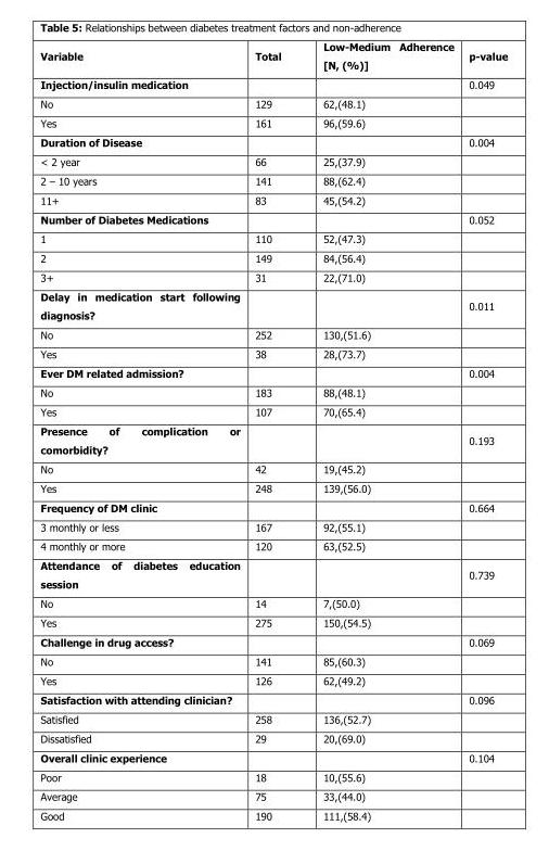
<table><thead><tr><td>Variable</td><td>Total</td><td>Low-Medium Adherence [N, (%)]</td><td>p-value</td></tr></thead><tbody><tr><td>Injection/insulin medication</td><td></td><td></td><td>0.049</td></tr><tr><td>No</td><td>129</td><td>62,(48.1)</td><td></td></tr><tr><td>Yes</td><td>161</td><td>96,(59.6)</td><td></td></tr><tr><td>Duration of Disease</td><td></td><td></td><td>0.004</td></tr><tr><td>&lt; 2 year</td><td>66</td><td>25,(37.9)</td><td></td></tr><tr><td>2 – 10 years</td><td>141</td><td>88,(62.4)</td><td></td></tr><tr><td>11+</td><td>83</td><td>45,(54.2)</td><td></td></tr><tr><td>Number of Diabetes Medications</td><td></td><td></td><td>0.052</td></tr><tr><td>1</td><td>110</td><td>52,(47.3)</td><td></td></tr><tr><td>2</td><td>149</td><td>84,(56.4)</td><td></td></tr><tr><td>3+</td><td>31</td><td>22,(71.0)</td><td></td></tr><tr><td>Delay in medication start following diagnosis?</td><td></td><td></td><td>0.011</td></tr><tr><td>No</td><td>252</td><td>130,(51.6)</td><td></td></tr><tr><td>Yes</td><td>38</td><td>28,(73.7)</td><td></td></tr><tr><td>Ever DM related admission?</td><td></td><td></td><td>0.004</td></tr><tr><td>No</td><td>183</td><td>88,(48.1)</td><td></td></tr><tr><td>Yes</td><td>107</td><td>70,(65.4)</td><td></td></tr><tr><td>Presence of complication or comorbidity?</td><td></td><td></td><td>0.193</td></tr><tr><td>No</td><td>42</td><td>19,(45.2)</td><td></td></tr><tr><td>Yes</td><td>248</td><td>139,(56.0)</td><td></td></tr><tr><td>Frequency of DM clinic</td><td></td><td></td><td>0.664</td></tr><tr><td>3 monthly or less</td><td>167</td><td>92,(55.1)</td><td></td></tr><tr><td>4 monthly or more</td><td>120</td><td>63,(52.5)</td><td></td></tr><tr><td>Attendance of diabetes education session</td><td></td><td></td><td>0.739</td></tr><tr><td>No</td><td>14</td><td>7,(50.0)</td><td></td></tr><tr><td>Yes</td><td>275</td><td>150,(54.5)</td><td></td></tr><tr><td>Challenge in drug access?</td><td></td><td></td><td>0.069</td></tr><tr><td>No</td><td>141</td><td>85,(60.3)</td><td></td></tr><tr><td>Yes</td><td>126</td><td>62,(49.2)</td><td></td></tr><tr><td>Satisfaction with attending clinician?</td><td></td><td></td><td>0.096</td></tr><tr><td>Satisfied</td><td>258</td><td>136,(52.7)</td><td></td></tr><tr><td>Dissatisfied</td><td>29</td><td>20,(69.0)</td><td></td></tr><tr><td>Overall clinic experience</td><td></td><td></td><td>0.104</td></tr><tr><td>Poor</td><td>18</td><td>10,(55.6)</td><td></td></tr><tr><td>Average</td><td>75</td><td>33,(44.0)</td><td></td></tr><tr><td>Good</td><td>190</td><td>111,(58.4)</td><td></td></tr></tbody></table>